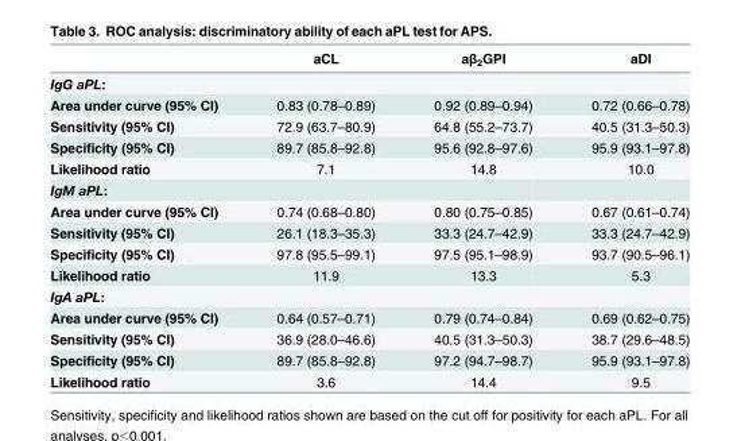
<table><thead><tr><td></td><td>aCL</td><td>aβ<sub>2</sub>GPI</td><td>aDI</td></tr></thead><tbody><tr><td colspan="4">IgG aPL:</td></tr><tr><td>Area under curve (95% CI)</td><td>0.83 (0.78–0.89)</td><td>0.92 (0.89–0.94)</td><td>0.72 (0.66–0.78)</td></tr><tr><td>Sensitivity (95% CI)</td><td>72.9 (63.7–80.9)</td><td>64.8 (55.2–73.7)</td><td>40.5 (31.3–50.3)</td></tr><tr><td>Specificity (95% CI)</td><td>89.7 (85.8–92.8)</td><td>95.6 (92.8–97.6)</td><td>95.9 (93.1–97.8)</td></tr><tr><td>Likelihood ratio</td><td>7.1</td><td>14.8</td><td>10.0</td></tr><tr><td colspan="4">IgM aPL:</td></tr><tr><td>Area under curve (95% CI)</td><td>0.74 (0.68–0.80)</td><td>0.80 (0.75–0.85)</td><td>0.67 (0.61–0.74)</td></tr><tr><td>Sensitivity (95% CI)</td><td>26.1 (18.3–35.3)</td><td>33.3 (24.7–42.9)</td><td>33.3 (24.7–42.9)</td></tr><tr><td>Specificity (95% CI)</td><td>97.8 (95.5–99.1)</td><td>97.5 (95.1–98.9)</td><td>93.7 (90.5–96.1)</td></tr><tr><td>Likelihood ratio</td><td>11.9</td><td>13.3</td><td>5.3</td></tr><tr><td colspan="4">IgA aPL:</td></tr><tr><td>Area under curve (95% CI)</td><td>0.64 (0.57–0.71)</td><td>0.79 (0.74–0.84)</td><td>0.69 (0.62–0.75)</td></tr><tr><td>Sensitivity (95% CI)</td><td>36.9 (28.0–46.6)</td><td>40.5 (31.3–50.3)</td><td>38.7 (29.6–48.5)</td></tr><tr><td>Specificity (95% CI)</td><td>89.7 (85.8–92.8)</td><td>97.2 (94.7–98.7)</td><td>95.9 (93.1–97.8)</td></tr><tr><td>Likelihood ratio</td><td>3.6</td><td>14.4</td><td>9.5</td></tr></tbody></table>